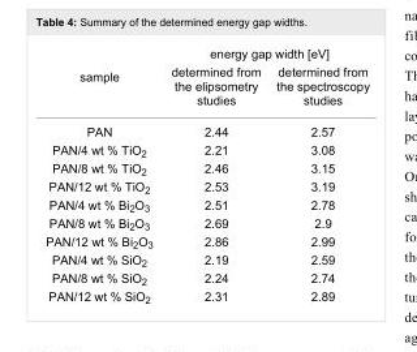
<table><tbody><tr><td rowspan="2">sample</td><td colspan="2">energy gap width [eV]</td></tr><tr><td>determined from the elipsometry studies</td><td>determined from the spectroscopy studies</td></tr><tr><td>PAN</td><td>2.44</td><td>2.57</td></tr><tr><td>PAN/4 wt % TiO<sub>2</sub></td><td>2.21</td><td>3.08</td></tr><tr><td>PAN/8 wt % TiO<sub>2</sub></td><td>2.46</td><td>3.15</td></tr><tr><td>PAN/12 wt % TiO<sub>2</sub></td><td>2.53</td><td>3.19</td></tr><tr><td>PAN/4 wt % Bi<sub>2</sub>O<sub>3</sub></td><td>2.51</td><td>2.78</td></tr><tr><td>PAN/8 wt % Bi<sub>2</sub>O<sub>3</sub></td><td>2.69</td><td>2.9</td></tr><tr><td>PAN/12 wt % Bi<sub>2</sub>O<sub>3</sub></td><td>2.86</td><td>2.99</td></tr><tr><td>PAN/4 wt % SiO<sub>2</sub></td><td>2.19</td><td>2.59</td></tr><tr><td>PAN/8 wt % SiO<sub>2</sub></td><td>2.24</td><td>2.74</td></tr><tr><td>PAN/12 wt % SiO<sub>2</sub></td><td>2.31</td><td>2.89</td></tr></tbody></table>